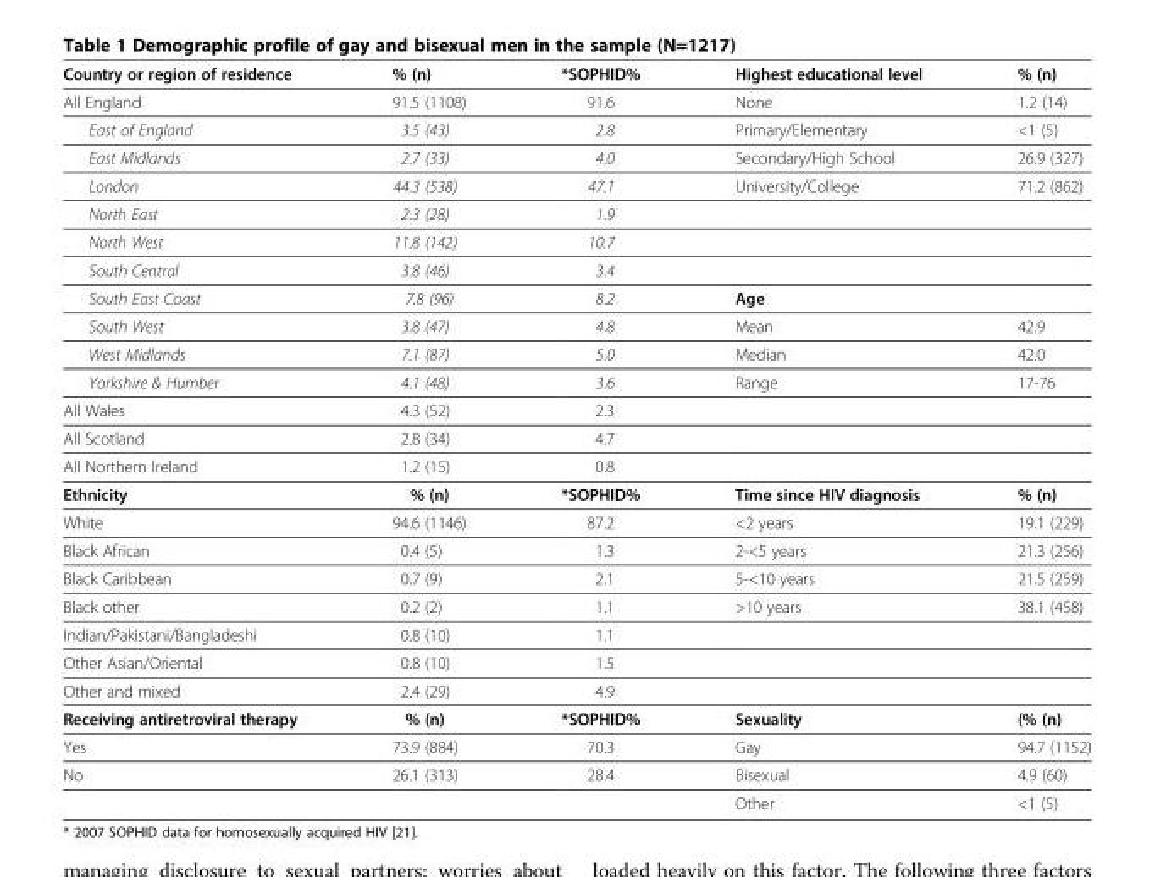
<table><thead><tr><td>Country or region of residence</td><td>% (n)</td><td>*SOPHID%</td><td>Highest educational level</td><td>% (n)</td></tr></thead><tbody><tr><td>All England</td><td>91.5 (1108)</td><td>91.6</td><td>None</td><td>1.2 (14)</td></tr><tr><td>East of England</td><td>3.5 (43)</td><td>2.8</td><td>Primary/Elementary</td><td>&lt;1 (5)</td></tr><tr><td>East Midlands</td><td>2.7 (33)</td><td>4.0</td><td>Secondary/High School</td><td>26.9 (327)</td></tr><tr><td>London</td><td>44.3 (538)</td><td>47.1</td><td>University/College</td><td>71.2 (862)</td></tr><tr><td>North East</td><td>2.3 (28)</td><td>1.9</td><td></td><td></td></tr><tr><td>North West</td><td>11.8 (142)</td><td>10.7</td><td></td><td></td></tr><tr><td>South Central</td><td>3.8 (46)</td><td>3.4</td><td></td><td></td></tr><tr><td>South East Coast</td><td>7.8 (96)</td><td>8.2</td><td>Age</td><td></td></tr><tr><td>South West</td><td>3.8 (47)</td><td>4.8</td><td>Mean</td><td>42.9</td></tr><tr><td>West Midlands</td><td>7.1 (87)</td><td>5.0</td><td>Median</td><td>42.0</td></tr><tr><td>Yorkshire &amp; Humber</td><td>4.1 (48)</td><td>3.6</td><td>Range</td><td>17-76</td></tr><tr><td>All Wales</td><td>4.3 (52)</td><td>2.3</td><td></td><td></td></tr><tr><td>All Scotland</td><td>2.8 (34)</td><td>4.7</td><td></td><td></td></tr><tr><td>All Northern Ireland</td><td>1.2 (15)</td><td>0.8</td><td></td><td></td></tr><tr><td>Ethnicity</td><td>% (n)</td><td>*SOPHID%</td><td>Time since HIV diagnosis</td><td>% (n)</td></tr><tr><td>White</td><td>94.6 (1146)</td><td>87.2</td><td>&lt;2 years</td><td>19.1 (229)</td></tr><tr><td>Black African</td><td>0.4 (5)</td><td>1.3</td><td>2-&lt;5 years</td><td>21.3 (256)</td></tr><tr><td>Black Caribbean</td><td>0.7 (9)</td><td>2.1</td><td>5-&lt;10 years</td><td>21.5 (259)</td></tr><tr><td>Black other</td><td>0.2 (2)</td><td>1.1</td><td>&gt;10 years</td><td>38.1 (458)</td></tr><tr><td>Indian/Pakistani/Bangladeshi</td><td>0.8 (10)</td><td>1.1</td><td></td><td></td></tr><tr><td>Other Asian/Oriental</td><td>0.8 (10)</td><td>1.5</td><td></td><td></td></tr><tr><td>Other and mixed</td><td>2.4 (29)</td><td>4.9</td><td></td><td></td></tr><tr><td>Receiving antiretroviral therapy</td><td>% (n)</td><td>*SOPHID%</td><td>Sexuality</td><td>(% (n)</td></tr><tr><td>Yes</td><td>73.9 (884)</td><td>70.3</td><td>Gay</td><td>94.7 (1152)</td></tr><tr><td rowspan="2">No</td><td>26.1 (313)</td><td>28.4</td><td>Bisexual</td><td>4.9 (60)</td></tr><tr><td></td><td></td><td>Other</td><td>&lt;1 (5)</td></tr></tbody></table>